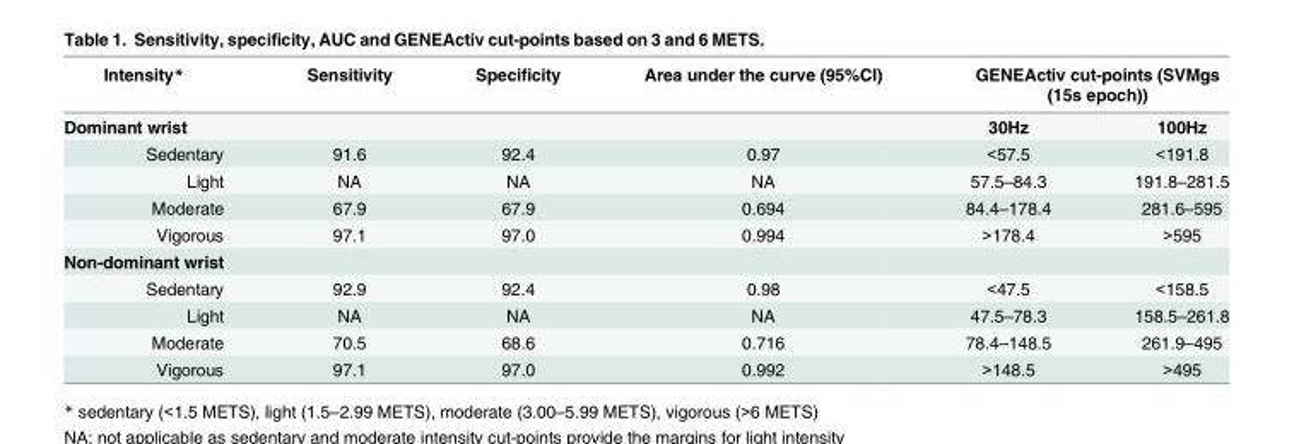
<table><thead><tr><td rowspan="2">Intensity* Dominant wrist</td><td rowspan="2">Sensitivity</td><td rowspan="2">Specificity</td><td rowspan="2">Area under the curve (95%CI)</td><td colspan="2">GENEActiv cut-points (SVMgs (15s epoch))</td></tr><tr><td>30Hz</td><td>100Hz</td></tr></thead><tbody><tr><td>Sedentary</td><td>91.6</td><td>92.4</td><td>0.97</td><td>&lt;57.5</td><td>&lt;191.8</td></tr><tr><td>Light</td><td>NA</td><td>NA</td><td>NA</td><td>57.5–84.3</td><td>191.8–281.5</td></tr><tr><td>Moderate</td><td>67.9</td><td>67.9</td><td>0.694</td><td>84.4–178.4</td><td>281.6–595</td></tr><tr><td>Vigorous</td><td>97.1</td><td>97.0</td><td>0.994</td><td>&gt;178.4</td><td>&gt;595</td></tr><tr><td colspan="6">Non-dominant wrist</td></tr><tr><td>Sedentary</td><td>92.9</td><td>92.4</td><td>0.98</td><td>&lt;47.5</td><td>&lt;158.5</td></tr><tr><td>Light</td><td>NA</td><td>NA</td><td>NA</td><td>47.5–78.3</td><td>158.5–261.8</td></tr><tr><td>Moderate</td><td>70.5</td><td>68.6</td><td>0.716</td><td>78.4–148.5</td><td>261.9–495</td></tr><tr><td>Vigorous</td><td>97.1</td><td>97.0</td><td>0.992</td><td>&gt;148.5</td><td>&gt;495</td></tr></tbody></table>